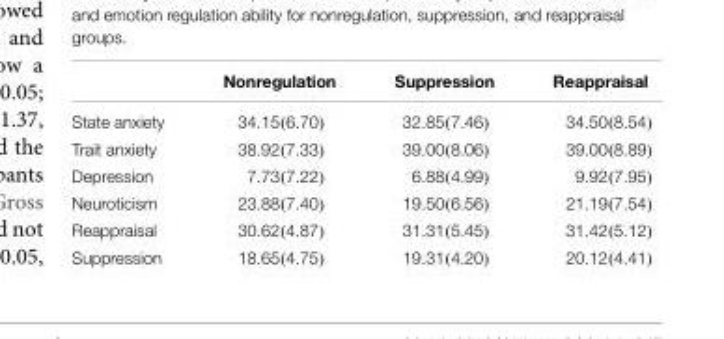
<table><thead><tr><td></td><td>Nonregulation</td><td>Suppression</td><td>Reappraisal</td></tr></thead><tbody><tr><td>State anxiety</td><td>34.15(6.70)</td><td>32.85(7.46)</td><td>34.50(8.54)</td></tr><tr><td>Trait anxiety</td><td>38.92(7.33)</td><td>39.00(8.06)</td><td>39.00(8.89)</td></tr><tr><td>Depression</td><td>7.73(7.22)</td><td>6.88(4.99)</td><td>9.92(7.95)</td></tr><tr><td>Neuroticism</td><td>23.88(7.40)</td><td>19.50(6.56)</td><td>21.19(7.54)</td></tr><tr><td>Reappraisal</td><td>30.62(4.87)</td><td>31.31(5.45)</td><td>31.42(5.12)</td></tr><tr><td>Suppression</td><td>18.65(4.75)</td><td>19.31(4.20)</td><td>20.12(4.41)</td></tr></tbody></table>